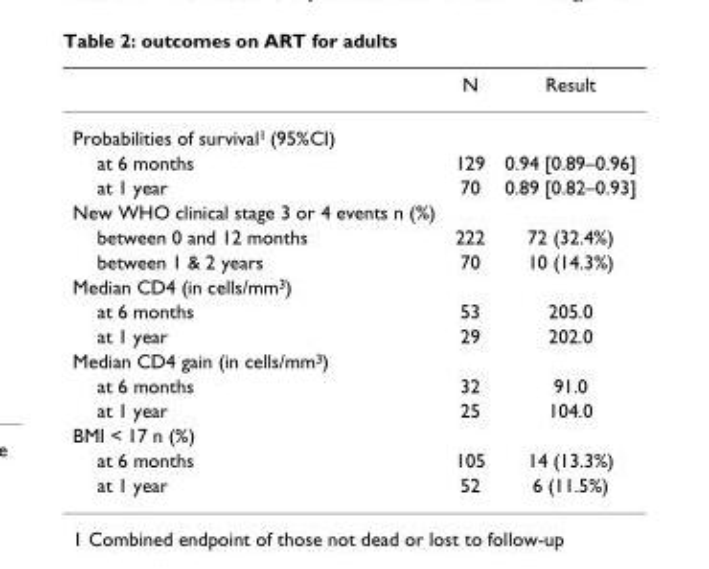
<table><thead><tr><td></td><td>N</td><td>Result</td></tr></thead><tbody><tr><td colspan="3">Probabilities of survival<sup>1</sup> (95%CI)</td></tr><tr><td>at 6 months</td><td>129</td><td>0.94 [0.89–0.96]</td></tr><tr><td>at 1 year</td><td>70</td><td>0.89 [0.82–0.93]</td></tr><tr><td colspan="3">New WHO clinical stage 3 or 4 events n (%)</td></tr><tr><td>between 0 and 12 months</td><td>222</td><td>72 (32.4%)</td></tr><tr><td>between 1 &amp; 2 years</td><td>70</td><td>10 (14.3%)</td></tr><tr><td colspan="3">Median CD4 (in cells/mm<sup>3</sup>)</td></tr><tr><td>at 6 months</td><td>53</td><td>205.0</td></tr><tr><td>at 1 year</td><td>29</td><td>202.0</td></tr><tr><td colspan="3">Median CD4 gain (in cells/mm<sup>3</sup>)</td></tr><tr><td>at 6 months</td><td>32</td><td>91.0</td></tr><tr><td>at 1 year</td><td>25</td><td>104.0</td></tr><tr><td colspan="3">BMI &lt; 17 n (%)</td></tr><tr><td>at 6 months</td><td>105</td><td>14 (13.3%)</td></tr><tr><td>at 1 year</td><td>52</td><td>6 (11.5%)</td></tr></tbody></table>